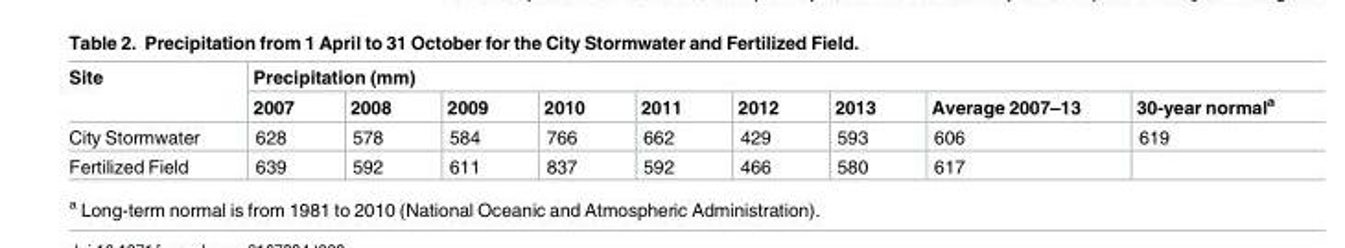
<table><thead><tr><td rowspan="2">Site</td><td colspan="9">Precipitation (mm)</td></tr><tr><td>2007</td><td>2008</td><td>2009</td><td>2010</td><td>2011</td><td>2012</td><td>2013</td><td>Average 2007–13</td><td>30-year normal<sup>a</sup></td></tr></thead><tbody><tr><td>City Stormwater</td><td>628</td><td>578</td><td>584</td><td>766</td><td>662</td><td>429</td><td>593</td><td>606</td><td>619</td></tr><tr><td>Fertilized Field</td><td>639</td><td>592</td><td>611</td><td>837</td><td>592</td><td>466</td><td>580</td><td>617</td><td></td></tr></tbody></table>